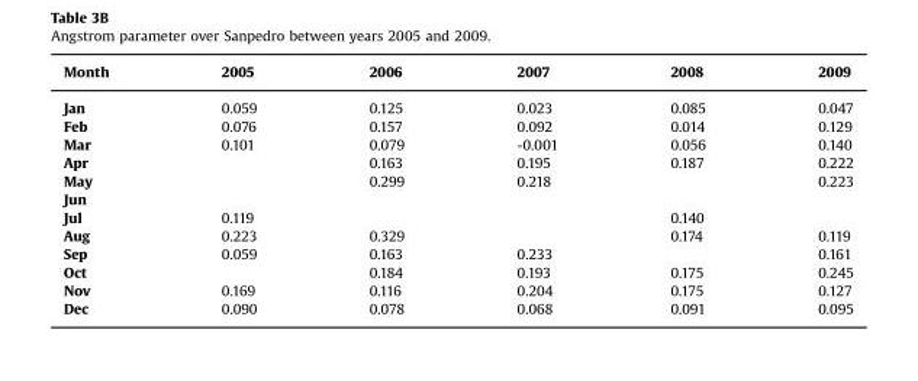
<table><thead><tr><td>Month</td><td>2005</td><td>2006</td><td>2007</td><td>2008</td><td>2009</td></tr></thead><tbody><tr><td>Jan</td><td>0.059</td><td>0.125</td><td>0.023</td><td>0.085</td><td>0.047</td></tr><tr><td>Feb</td><td>0.076</td><td>0.157</td><td>0.092</td><td>0.014</td><td>0.129</td></tr><tr><td>Mar</td><td>0.101</td><td>0.079</td><td>-0.001</td><td>0.056</td><td>0.140</td></tr><tr><td>Apr</td><td></td><td>0.163</td><td>0.195</td><td>0.187</td><td>0.222</td></tr><tr><td>May</td><td></td><td>0.299</td><td>0.218</td><td></td><td>0.223</td></tr><tr><td colspan="6">Jun</td></tr><tr><td>Jul</td><td>0.119</td><td></td><td></td><td>0.140</td><td></td></tr><tr><td>Aug</td><td>0.223</td><td>0.329</td><td></td><td>0.174</td><td>0.119</td></tr><tr><td>Sep</td><td>0.059</td><td>0.163</td><td>0.233</td><td></td><td>0.161</td></tr><tr><td>Oct</td><td></td><td>0.184</td><td>0.193</td><td>0.175</td><td>0.245</td></tr><tr><td>Nov</td><td>0.169</td><td>0.116</td><td>0.204</td><td>0.175</td><td>0.127</td></tr><tr><td>Dec</td><td>0.090</td><td>0.078</td><td>0.068</td><td>0.091</td><td>0.095</td></tr></tbody></table>